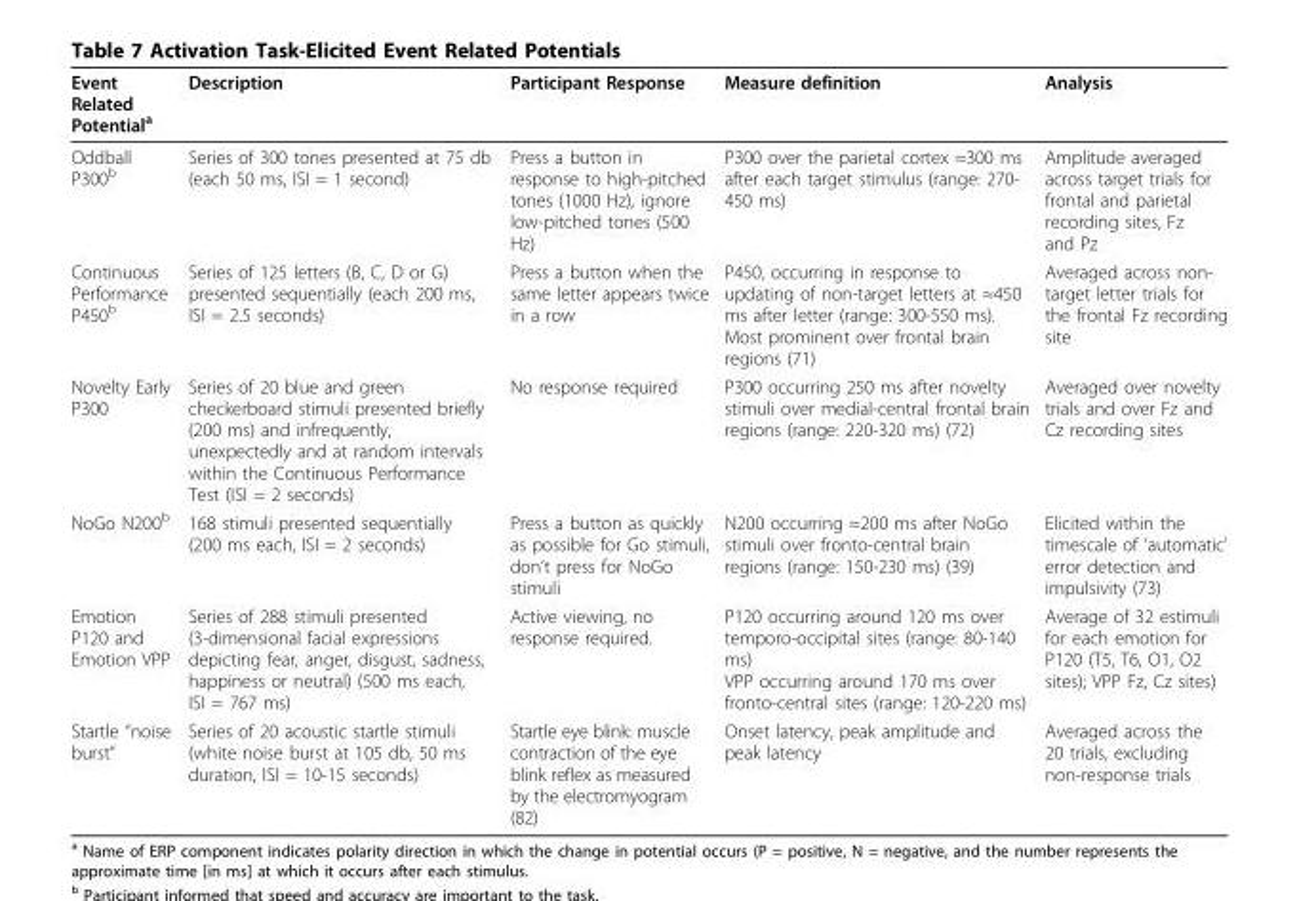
<table><thead><tr><td>Event Related Potential<sup>a</sup></td><td>Description</td><td>Participant Response</td><td>Measure definition</td><td>Analysis</td></tr></thead><tbody><tr><td>Oddball P300<sup>b</sup></td><td>Series of 300 tones presented at 75 db (each 50 ms, ISI = 1 second)</td><td>Press a button in response to high-pitched tones (1000 Hz), ignore low-pitched tones (500 Hz)</td><td>P300 over the parietal cortex ≈300 ms after each target stimulus (range: 270- 450 ms)</td><td>Amplitude averaged across target trials for frontal and parietal recording sites, Fz and Pz</td></tr><tr><td>Continuous Performance P450<sup>b</sup></td><td>Series of 125 letters (B, C, D or G) presented sequentially (each 200 ms, ISI = 2.5 seconds)</td><td>Press a button when the same letter appears twice in a row</td><td>P450, occurring in response to updating of non-target letters at ≈450 ms after letter (range: 300-550 ms). Most prominent over frontal brain regions (71)</td><td>Averaged across non- target letter trials for the frontal Fz recording site</td></tr><tr><td>Novelty Early P300</td><td>Series of 20 blue and green checkerboard stimuli presented briefly (200 ms) and infrequently, unexpectedly and at random intervals within the Continuous Performance Test (ISI = 2 seconds)</td><td>No response required</td><td>P300 occurring 250 ms after novelty stimuli over medial-central frontal brain regions (range: 220-320 ms) (72)</td><td>Averaged over novelty trials and over Fz and Cz recording sites</td></tr><tr><td>NoGo N200<sup>b</sup></td><td>168 stimuli presented sequentially (200 ms each, ISI = 2 seconds)</td><td>Press a button as quickly as possible for Go stimuli, don’t press for NoGo stimuli</td><td>N200 occurring ≈200 ms after NoGo stimuli over fronto-central brain regions (range: 150-230 ms) (39)</td><td>Elicited within the timescale of ‘automatic’ error detection and impulsivity (73)</td></tr><tr><td>Emotion P120 and Emotion VPP</td><td>Series of 288 stimuli presented (3-dimensional facial expressions depicting fear, anger, disgust, sadness, happiness or neutral) (500 ms each, ISI = 767 ms)</td><td>Active viewing, no response required.</td><td>P120 occurring around 120 ms over temporo-occipital sites (range: 80-140 ms) VPP occurring around 170 ms over fronto-central sites (range: 120-220 ms)</td><td>Average of 32 estimuli for each emotion for P120 (T5, T6, O1, O2 sites); VPP Fz, Cz sites)</td></tr><tr><td>Startle “noise burst”</td><td>Series of 20 acoustic startle stimuli (white noise burst at 105 db, 50 ms duration, ISI = 10-15 seconds)</td><td>Startle eye blink: muscle contraction of the eye blink reflex as measured by the electromyogram (82)</td><td>Onset latency, peak amplitude and peak latency</td><td>Averaged across the 20 trials, excluding non-response trials</td></tr></tbody></table>